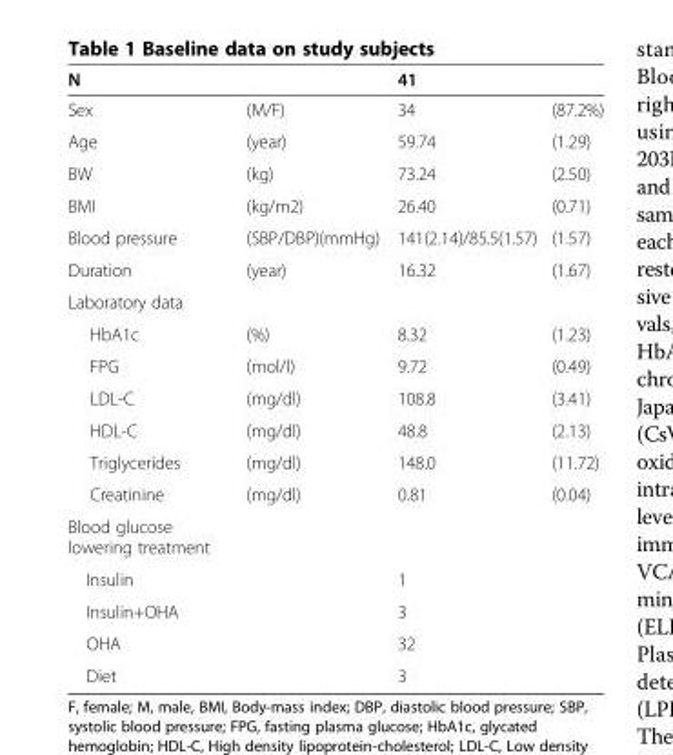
<table><thead><tr><td>N</td><td></td><td>41</td><td></td></tr></thead><tbody><tr><td>Sex</td><td>(M/F)</td><td>34</td><td>(87.2%)</td></tr><tr><td>Age</td><td>(year)</td><td>59.74</td><td>(1.29)</td></tr><tr><td>BW</td><td>(kg)</td><td>73.24</td><td>(2.50)</td></tr><tr><td>BMI</td><td>(kg/m2)</td><td>26.40</td><td>(0.71)</td></tr><tr><td>Blood pressure</td><td>(SBP/DBP)(mmHg)</td><td>141(2.14)/85.5(1.57)</td><td>(1.57)</td></tr><tr><td>Duration</td><td>(year)</td><td>16.32</td><td>(1.67)</td></tr><tr><td colspan="4">Laboratory data</td></tr><tr><td>HbA1c</td><td>(%)</td><td>8.32</td><td>(1.23)</td></tr><tr><td>FPG</td><td>(mol/l)</td><td>9.72</td><td>(0.49)</td></tr><tr><td>LDL-C</td><td>(mg/dl)</td><td>108.8</td><td>(3.41)</td></tr><tr><td>HDL-C</td><td>(mg/dl)</td><td>48.8</td><td>(2.13)</td></tr><tr><td>Triglycerides</td><td>(mg/dl)</td><td>148.0</td><td>(11.72)</td></tr><tr><td>Creatinine</td><td>(mg/dl)</td><td>0.81</td><td>(0.04)</td></tr><tr><td colspan="4">Blood glucose lowering treatment</td></tr><tr><td>Insulin</td><td></td><td>1</td><td></td></tr><tr><td>Insulin+OHA</td><td></td><td>3</td><td></td></tr><tr><td>OHA</td><td></td><td>32</td><td></td></tr><tr><td>Diet</td><td></td><td>3</td><td></td></tr></tbody></table>